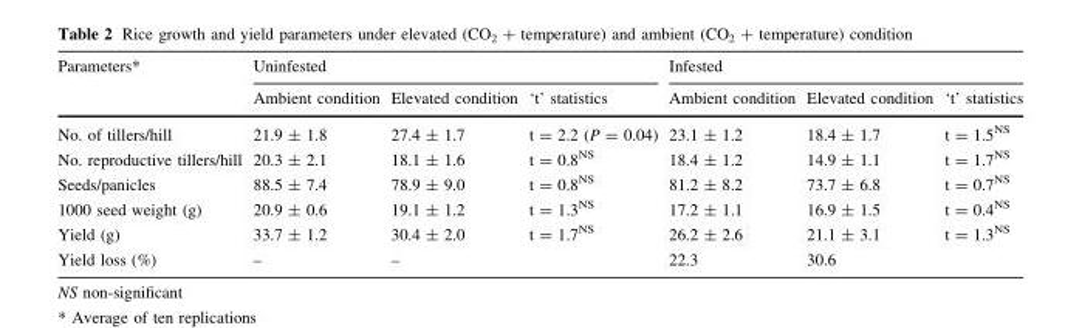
<table><thead><tr><td rowspan="2">Parameters*</td><td colspan="3">Uninfested</td><td colspan="3">Infested</td></tr><tr><td>Ambient condition</td><td>Elevated condition</td><td>‘t’ statistics</td><td>Ambient condition</td><td>Elevated condition</td><td>‘t’ statistics</td></tr></thead><tbody><tr><td>No. of tillers/hill</td><td>21.9 ± 1.8</td><td>27.4 ± 1.7</td><td>t = 2.2 (P = 0.04)</td><td>23.1 ± 1.2</td><td>18.4 ± 1.7</td><td>t = 1.5<sup>NS</sup></td></tr><tr><td>No. reproductive tillers/hill</td><td>20.3 ± 2.1</td><td>18.1 ± 1.6</td><td>t = 0.8<sup>NS</sup></td><td>18.4 ± 1.2</td><td>14.9 ± 1.1</td><td>t = 1.7<sup>NS</sup></td></tr><tr><td>Seeds/panicles</td><td>88.5 ± 7.4</td><td>78.9 ± 9.0</td><td>t = 0.8<sup>NS</sup></td><td>81.2 ± 8.2</td><td>73.7 ± 6.8</td><td>t = 0.7<sup>NS</sup></td></tr><tr><td>1000 seed weight (g)</td><td>20.9 ± 0.6</td><td>19.1 ± 1.2</td><td>t = 1.3<sup>NS</sup></td><td>17.2 ± 1.1</td><td>16.9 ± 1.5</td><td>t = 0.4<sup>NS</sup></td></tr><tr><td>Yield (g)</td><td>33.7 ± 1.2</td><td>30.4 ± 2.0</td><td>t = 1.7<sup>NS</sup></td><td>26.2 ± 2.6</td><td>21.1 ± 3.1</td><td>t = 1.3<sup>NS</sup></td></tr><tr><td>Yield loss (%)</td><td>–</td><td>–</td><td></td><td>22.3</td><td>30.6</td><td></td></tr></tbody></table>